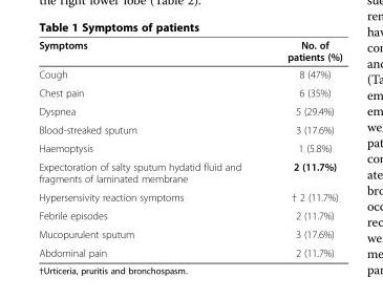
<table><thead><tr><td>Symptoms</td><td>No. of patients (%)</td></tr></thead><tbody><tr><td>Cough</td><td>8 (47%)</td></tr><tr><td>Chest pain</td><td>6 (35%)</td></tr><tr><td>Dyspnea</td><td>5 (29.4%)</td></tr><tr><td>Blood-streaked sputum</td><td>3 (17.6%)</td></tr><tr><td>Haemoptysis</td><td>1 (5.8%)</td></tr><tr><td>Expectoration of salty sputum hydatid fluid and fragments of laminated membrane</td><td>2 (11.7%)</td></tr><tr><td>Hypersensivity reaction symptoms</td><td>† 2 (11.7%)</td></tr><tr><td>Febrile episodes</td><td>2 (11.7%)</td></tr><tr><td>Mucopurulent sputum</td><td>3 (17.6%)</td></tr><tr><td>Abdominal pain</td><td>2 (11.7%)</td></tr></tbody></table>